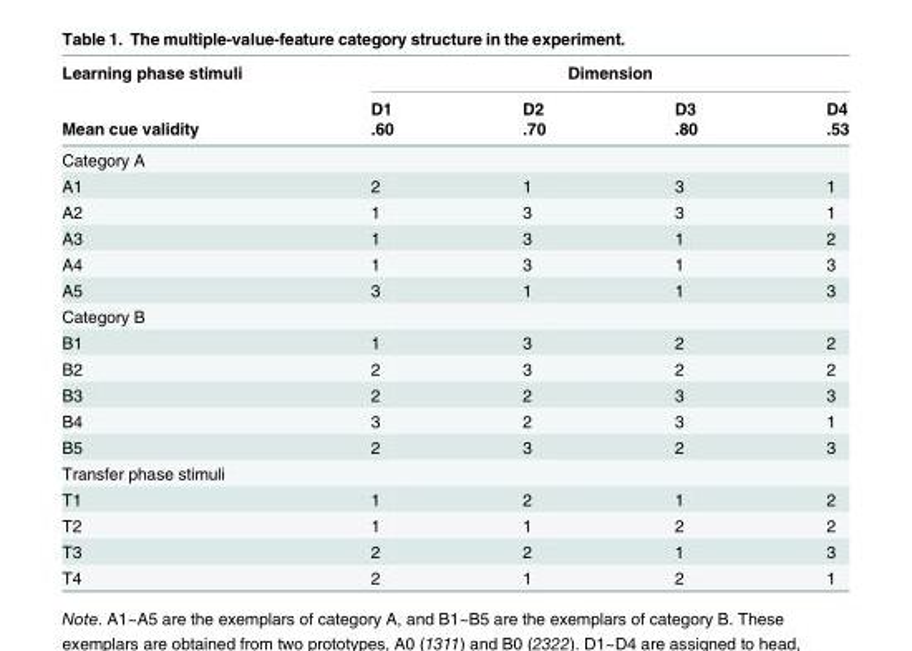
<table><thead><tr><td rowspan="3">Learning phase stimuli Mean cue validity</td><td colspan="4">Dimension</td></tr><tr><td rowspan="2">D1 .60</td><td rowspan="2">D2 .70</td><td rowspan="2">D3 .80</td><td rowspan="2">D4 .53</td></tr><tr></tr></thead><tbody><tr><td colspan="5">Category A</td></tr><tr><td>A1</td><td>2</td><td>1</td><td>3</td><td>1</td></tr><tr><td>A2</td><td>1</td><td>3</td><td>3</td><td>1</td></tr><tr><td>A3</td><td>1</td><td>3</td><td>1</td><td>2</td></tr><tr><td>A4</td><td>1</td><td>3</td><td>1</td><td>3</td></tr><tr><td>A5</td><td>3</td><td>1</td><td>1</td><td>3</td></tr><tr><td colspan="5">Category B</td></tr><tr><td>B1</td><td>1</td><td>3</td><td>2</td><td>2</td></tr><tr><td>B2</td><td>2</td><td>3</td><td>2</td><td>2</td></tr><tr><td>B3</td><td>2</td><td>2</td><td>3</td><td>3</td></tr><tr><td>B4</td><td>3</td><td>2</td><td>3</td><td>1</td></tr><tr><td>B5</td><td>2</td><td>3</td><td>2</td><td>3</td></tr><tr><td colspan="5">Transfer phase stimuli</td></tr><tr><td>T1</td><td>1</td><td>2</td><td>1</td><td>2</td></tr><tr><td>T2</td><td>1</td><td>1</td><td>2</td><td>2</td></tr><tr><td>T3</td><td>2</td><td>2</td><td>1</td><td>3</td></tr><tr><td>T4</td><td>2</td><td>1</td><td>2</td><td>1</td></tr></tbody></table>